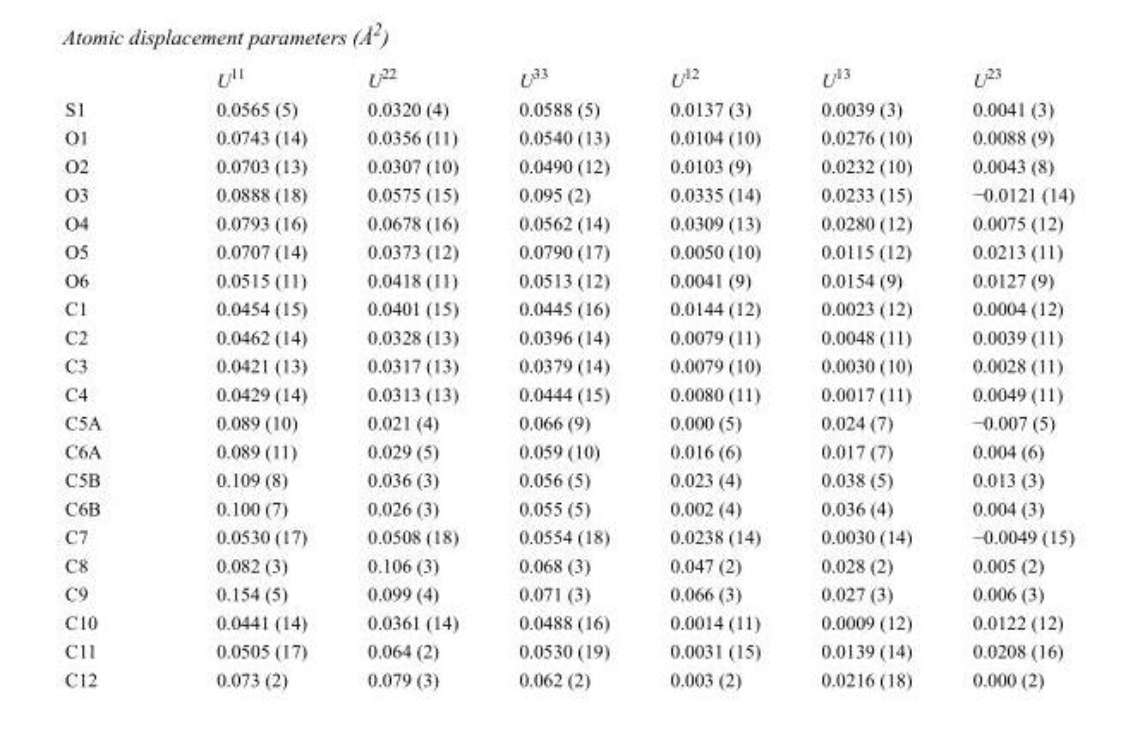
<table><thead><tr><td></td><td>U<sup>11</sup></td><td>U<sup>22</sup></td><td>U<sup>33</sup></td><td>U<sup>12</sup></td><td>U<sup>13</sup></td><td>U<sup>23</sup></td></tr></thead><tbody><tr><td>S1</td><td>0.0565 (5)</td><td>0.0320 (4)</td><td>0.0588 (5)</td><td>0.0137 (3)</td><td>0.0039 (3)</td><td>0.0041 (3)</td></tr><tr><td>O1</td><td>0.0743 (14)</td><td>0.0356 (11)</td><td>0.0540 (13)</td><td>0.0104 (10)</td><td>0.0276 (10)</td><td>0.0088 (9)</td></tr><tr><td>O2</td><td>0.0703 (13)</td><td>0.0307 (10)</td><td>0.0490 (12)</td><td>0.0103 (9)</td><td>0.0232 (10)</td><td>0.0043 (8)</td></tr><tr><td>O3</td><td>0.0888 (18)</td><td>0.0575 (15)</td><td>0.095 (2)</td><td>0.0335 (14)</td><td>0.0233 (15)</td><td>−0.0121 (14)</td></tr><tr><td>O4</td><td>0.0793 (16)</td><td>0.0678 (16)</td><td>0.0562 (14)</td><td>0.0309 (13)</td><td>0.0280 (12)</td><td>0.0075 (12)</td></tr><tr><td>O5</td><td>0.0707 (14)</td><td>0.0373 (12)</td><td>0.0790 (17)</td><td>0.0050 (10)</td><td>0.0115 (12)</td><td>0.0213 (11)</td></tr><tr><td>O6</td><td>0.0515 (11)</td><td>0.0418 (11)</td><td>0.0513 (12)</td><td>0.0041 (9)</td><td>0.0154 (9)</td><td>0.0127 (9)</td></tr><tr><td>C1</td><td>0.0454 (15)</td><td>0.0401 (15)</td><td>0.0445 (16)</td><td>0.0144 (12)</td><td>0.0023 (12)</td><td>0.0004 (12)</td></tr><tr><td>C2</td><td>0.0462 (14)</td><td>0.0328 (13)</td><td>0.0396 (14)</td><td>0.0079 (11)</td><td>0.0048 (11)</td><td>0.0039 (11)</td></tr><tr><td>C3</td><td>0.0421 (13)</td><td>0.0317 (13)</td><td>0.0379 (14)</td><td>0.0079 (10)</td><td>0.0030 (10)</td><td>0.0028 (11)</td></tr><tr><td>C4</td><td>0.0429 (14)</td><td>0.0313 (13)</td><td>0.0444 (15)</td><td>0.0080 (11)</td><td>0.0017 (11)</td><td>0.0049 (11)</td></tr><tr><td>C5A</td><td>0.089 (10)</td><td>0.021 (4)</td><td>0.066 (9)</td><td>0.000 (5)</td><td>0.024 (7)</td><td>−0.007 (5)</td></tr><tr><td>C6A</td><td>0.089 (11)</td><td>0.029 (5)</td><td>0.059 (10)</td><td>0.016 (6)</td><td>0.017 (7)</td><td>0.004 (6)</td></tr><tr><td>C5B</td><td>0.109 (8)</td><td>0.036 (3)</td><td>0.056 (5)</td><td>0.023 (4)</td><td>0.038 (5)</td><td>0.013 (3)</td></tr><tr><td>C6B</td><td>0.100 (7)</td><td>0.026 (3)</td><td>0.055 (5)</td><td>0.002 (4)</td><td>0.036 (4)</td><td>0.004 (3)</td></tr><tr><td>C7</td><td>0.0530 (17)</td><td>0.0508 (18)</td><td>0.0554 (18)</td><td>0.0238 (14)</td><td>0.0030 (14)</td><td>−0.0049 (15)</td></tr><tr><td>C8</td><td>0.082 (3)</td><td>0.106 (3)</td><td>0.068 (3)</td><td>0.047 (2)</td><td>0.028 (2)</td><td>0.005 (2)</td></tr><tr><td>C9</td><td>0.154 (5)</td><td>0.099 (4)</td><td>0.071 (3)</td><td>0.066 (3)</td><td>0.027 (3)</td><td>0.006 (3)</td></tr><tr><td>C10</td><td>0.0441 (14)</td><td>0.0361 (14)</td><td>0.0488 (16)</td><td>0.0014 (11)</td><td>0.0009 (12)</td><td>0.0122 (12)</td></tr><tr><td>C11</td><td>0.0505 (17)</td><td>0.064 (2)</td><td>0.0530 (19)</td><td>0.0031 (15)</td><td>0.0139 (14)</td><td>0.0208 (16)</td></tr><tr><td>C12</td><td>0.073 (2)</td><td>0.079 (3)</td><td>0.062 (2)</td><td>0.003 (2)</td><td>0.0216 (18)</td><td>0.000 (2)</td></tr></tbody></table>